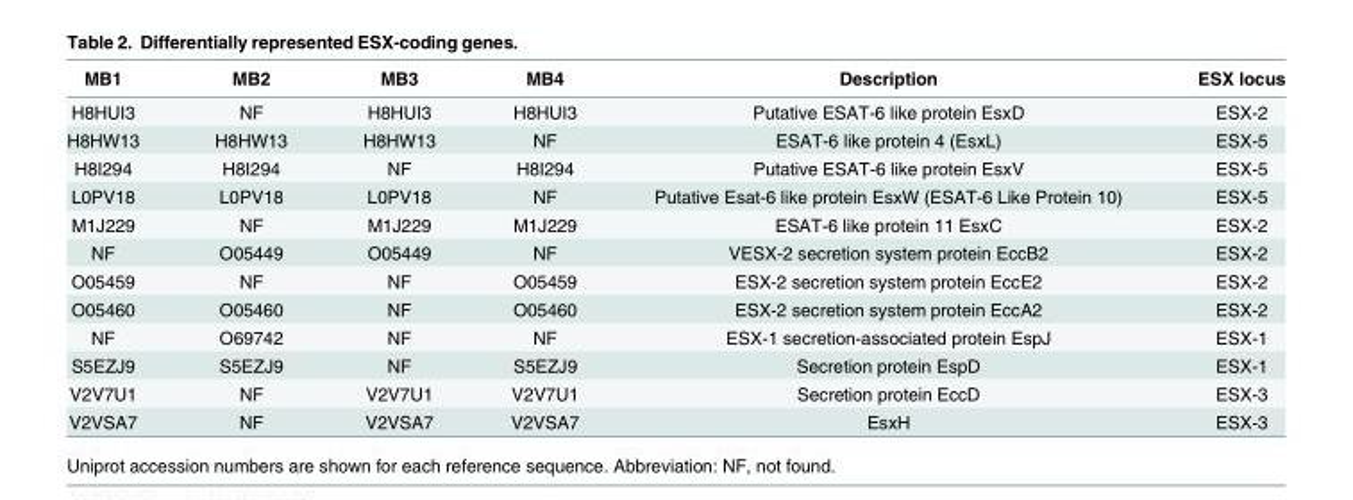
<table><thead><tr><td>MB1</td><td>MB2</td><td>MB3</td><td>MB4</td><td>Description</td><td>ESX locus</td></tr></thead><tbody><tr><td>H8HUI3</td><td>NF</td><td>H8HUI3</td><td>H8HUI3</td><td>Putative ESAT-6 like protein EsxD</td><td>ESX-2</td></tr><tr><td>H8HW13</td><td>H8HW13</td><td>H8HW13</td><td>NF</td><td>ESAT-6 like protein 4 (EsxL)</td><td>ESX-5</td></tr><tr><td>H8I294</td><td>H8I294</td><td>NF</td><td>H8I294</td><td>Putative ESAT-6 like protein EsxV</td><td>ESX-5</td></tr><tr><td>L0PV18</td><td>L0PV18</td><td>L0PV18</td><td>NF</td><td>Putative Esat-6 like protein EsxW (ESAT-6 Like Protein 10)</td><td>ESX-5</td></tr><tr><td>M1J229</td><td>NF</td><td>M1J229</td><td>M1J229</td><td>ESAT-6 like protein 11 EsxC</td><td>ESX-2</td></tr><tr><td>NF</td><td>O05449</td><td>O05449</td><td>NF</td><td>VESX-2 secretion system protein EccB2</td><td>ESX-2</td></tr><tr><td>O05459</td><td>NF</td><td>NF</td><td>O05459</td><td>ESX-2 secretion system protein EccE2</td><td>ESX-2</td></tr><tr><td>O05460</td><td>O05460</td><td>NF</td><td>O05460</td><td>ESX-2 secretion system protein EccA2</td><td>ESX-2</td></tr><tr><td>NF</td><td>O69742</td><td>NF</td><td>NF</td><td>ESX-1 secretion-associated protein EspJ</td><td>ESX-1</td></tr><tr><td>S5EZJ9</td><td>S5EZJ9</td><td>NF</td><td>S5EZJ9</td><td>Secretion protein EspD</td><td>ESX-1</td></tr><tr><td>V2V7U1</td><td>NF</td><td>V2V7U1</td><td>V2V7U1</td><td>Secretion protein EccD</td><td>ESX-3</td></tr><tr><td>V2VSA7</td><td>NF</td><td>V2VSA7</td><td>V2VSA7</td><td>EsxH</td><td>ESX-3</td></tr></tbody></table>